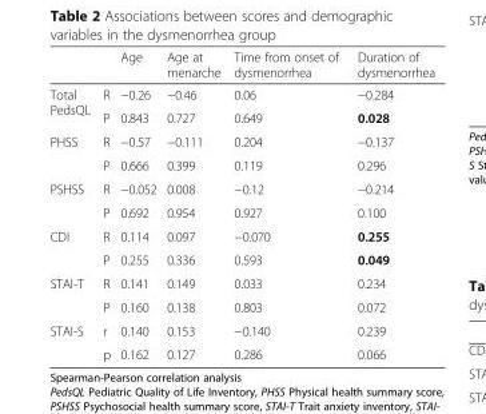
<table><thead><tr><td></td><td></td><td>Age</td><td>Age at menarche</td><td>Time from onset of dysmenorrhea</td><td>Duration of dysmenorrhea</td></tr></thead><tbody><tr><td rowspan="2">Total PedsQL</td><td>R</td><td>−0.26</td><td>−0.46</td><td>0.06</td><td>−0.284</td></tr><tr><td>P</td><td>0.843</td><td>0.727</td><td>0.649</td><td>0.028</td></tr><tr><td rowspan="2">PHSS</td><td>R</td><td>−0.57</td><td>−0.111</td><td>0.204</td><td>−0.137</td></tr><tr><td>P</td><td>0.666</td><td>0.399</td><td>0.119</td><td>0.296</td></tr><tr><td rowspan="2">PSHSS</td><td>R</td><td>−0.052</td><td>0.008</td><td>−0.12</td><td>−0.214</td></tr><tr><td>P</td><td>0.692</td><td>0.954</td><td>0.927</td><td>0.100</td></tr><tr><td rowspan="2">CDI</td><td>R</td><td>0.114</td><td>0.097</td><td>−0.070</td><td>0.255</td></tr><tr><td>P</td><td>0.255</td><td>0.336</td><td>0.593</td><td>0.049</td></tr><tr><td rowspan="2">STAI-T</td><td>R</td><td>0.141</td><td>0.149</td><td>0.033</td><td>0.234</td></tr><tr><td>P</td><td>0.160</td><td>0.138</td><td>0.803</td><td>0.072</td></tr><tr><td rowspan="2">STAI-S</td><td>r</td><td>0.140</td><td>0.153</td><td>−0.140</td><td>0.239</td></tr><tr><td>p</td><td>0.162</td><td>0.127</td><td>0.286</td><td>0.066</td></tr></tbody></table>